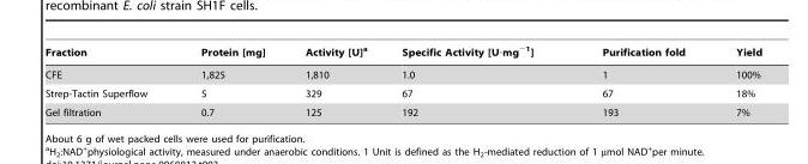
<table><thead><tr><td>Fraction</td><td>Protein [mg]</td><td>Activity [U]<sup>a</sup></td><td>Specific Activity [U·mg<sup>−1</sup>]</td><td>Purification fold</td><td>Yield</td></tr></thead><tbody><tr><td>CFE</td><td>1,825</td><td>1,810</td><td>1.0</td><td>1</td><td>100%</td></tr><tr><td>Strep-Tactin Superflow</td><td>5</td><td>329</td><td>67</td><td>67</td><td>18%</td></tr><tr><td>Gel filtration</td><td>0.7</td><td>125</td><td>192</td><td>193</td><td>7%</td></tr></tbody></table>